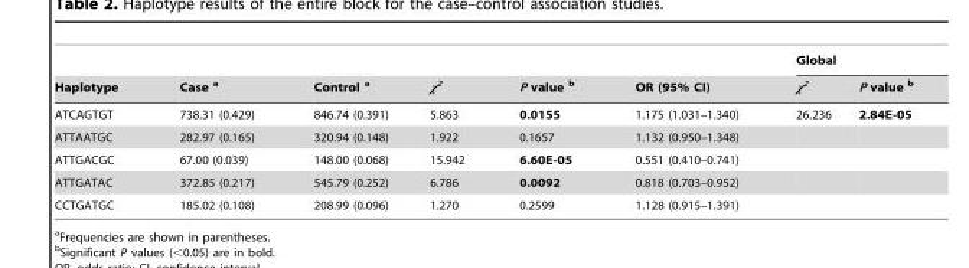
<table><thead><tr><td rowspan="2">Haplotype</td><td rowspan="2">Case a</td><td rowspan="2">Control a</td><td rowspan="2">χ<sup>2</sup></td><td rowspan="2">P value b</td><td rowspan="2">OR (95% CI)</td><td colspan="2">Global</td></tr><tr><td>χ<sup>2</sup></td><td>P value b</td></tr></thead><tbody><tr><td>ATCAGTGT</td><td>738.31 (0.429)</td><td>846.74 (0.391)</td><td>5.863</td><td>0.0155</td><td>1.175 (1.031–1.340)</td><td>26.236</td><td>2.84E-05</td></tr><tr><td>ATTAATGC</td><td>282.97 (0.165)</td><td>320.94 (0.148)</td><td>1.922</td><td>0.1657</td><td>1.132 (0.950–1.348)</td><td></td><td></td></tr><tr><td>ATTGACGC</td><td>67.00 (0.039)</td><td>148.00 (0.068)</td><td>15.942</td><td>6.60E-05</td><td>0.551 (0.410–0.741)</td><td></td><td></td></tr><tr><td>ATTGATAC</td><td>372.85 (0.217)</td><td>545.79 (0.252)</td><td>6.786</td><td>0.0092</td><td>0.818 (0.703–0.952)</td><td></td><td></td></tr><tr><td>CCTGATGC</td><td>185.02 (0.108)</td><td>208.99 (0.096)</td><td>1.270</td><td>0.2599</td><td>1.128 (0.915–1.391)</td><td></td><td></td></tr></tbody></table>